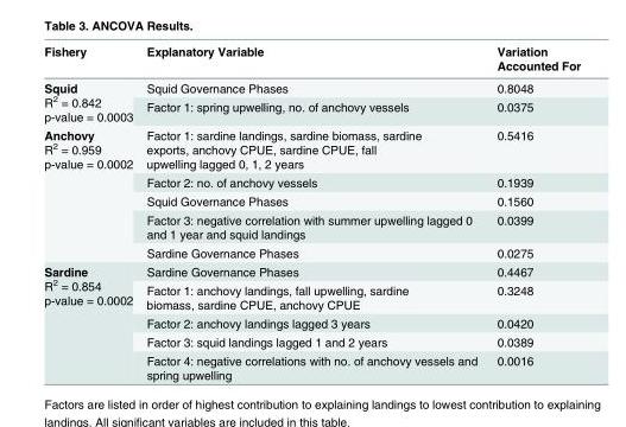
<table><thead><tr><td>Fishery</td><td>Explanatory Variable</td><td>Variation Accounted For</td></tr></thead><tbody><tr><td rowspan="2">Squid R<sup>2</sup> = 0.842 p-value = 0.0003</td><td>Squid Governance Phases</td><td>0.8048</td></tr><tr><td>Factor 1: spring upwelling, no. of anchovy vessels</td><td>0.0375</td></tr><tr><td rowspan="5">Anchovy R<sup>2</sup> = 0.959 p-value = 0.0002</td><td>Factor 1: sardine landings, sardine biomass, sardine exports, anchovy CPUE, sardine CPUE, fall upwelling lagged 0, 1, 2 years</td><td>0.5416</td></tr><tr><td>Factor 2: no. of anchovy vessels</td><td>0.1939</td></tr><tr><td>Squid Governance Phases</td><td>0.1560</td></tr><tr><td>Factor 3: negative correlation with summer upwelling lagged 0 and 1 year and squid landings</td><td>0.0399</td></tr><tr><td>Sardine Governance Phases</td><td>0.0275</td></tr><tr><td rowspan="5">Sardine R<sup>2</sup> = 0.854 p-value = 0.0002</td><td>Sardine Governance Phases</td><td>0.4467</td></tr><tr><td>Factor 1: anchovy landings, fall upwelling, sardine biomass, sardine CPUE, anchovy CPUE</td><td>0.3248</td></tr><tr><td>Factor 2: anchovy landings lagged 3 years</td><td>0.0420</td></tr><tr><td>Factor 3: squid landings lagged 1 and 2 years</td><td>0.0389</td></tr><tr><td>Factor 4: negative correlations with no. of anchovy vessels and spring upwelling</td><td>0.0016</td></tr></tbody></table>